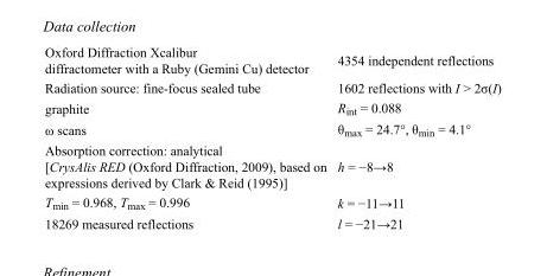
<table><tbody><tr><td>Oxford Diffraction Xcalibur diffractometer with a Ruby (Gemini Cu) detector</td><td>4354 independent reflections</td></tr><tr><td>Radiation source: fine-focus sealed tube</td><td>1602 reflections with I &gt; 2σ(I)</td></tr><tr><td>graphite</td><td>R<sub>int</sub> = 0.088</td></tr><tr><td>ω scans</td><td>θ<sub>max</sub> = 24.7°, θ<sub>min</sub> = 4.1°</td></tr><tr><td>Absorption correction: analytical [CrysAlis RED (Oxford Diffraction, 2009), based on expressions derived by Clark &amp; Reid (1995)]</td><td>h = −8→8</td></tr><tr><td>T<sub>min</sub> = 0.968, T<sub>max</sub> = 0.996</td><td>k = −11→11</td></tr><tr><td>18269 measured reflections</td><td>l = −21→21</td></tr></tbody></table>